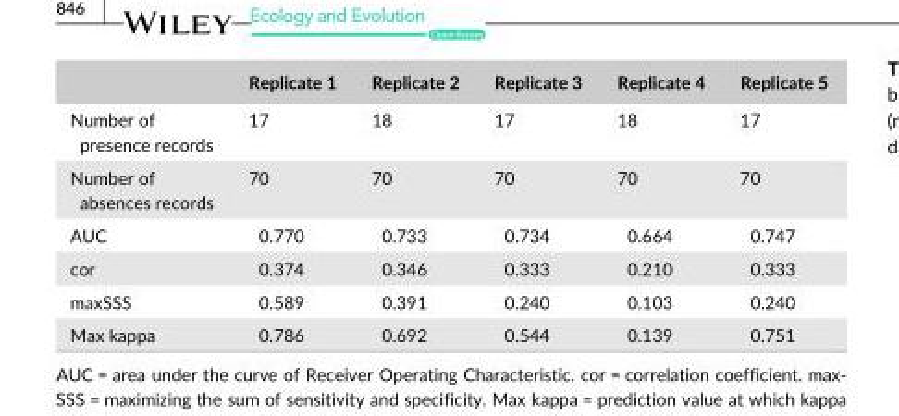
<table><thead><tr><td></td><td>Replicate 1</td><td>Replicate 2</td><td>Replicate 3</td><td>Replicate 4</td><td>Replicate 5</td></tr></thead><tbody><tr><td>Number of presence records</td><td>17</td><td>18</td><td>17</td><td>18</td><td>17</td></tr><tr><td>Number of absences records</td><td>70</td><td>70</td><td>70</td><td>70</td><td>70</td></tr><tr><td>AUC</td><td>0.770</td><td>0.733</td><td>0.734</td><td>0.664</td><td>0.747</td></tr><tr><td>cor</td><td>0.374</td><td>0.346</td><td>0.333</td><td>0.210</td><td>0.333</td></tr><tr><td>maxSSS</td><td>0.589</td><td>0.391</td><td>0.240</td><td>0.103</td><td>0.240</td></tr><tr><td>Max kappa</td><td>0.786</td><td>0.692</td><td>0.544</td><td>0.139</td><td>0.751</td></tr></tbody></table>